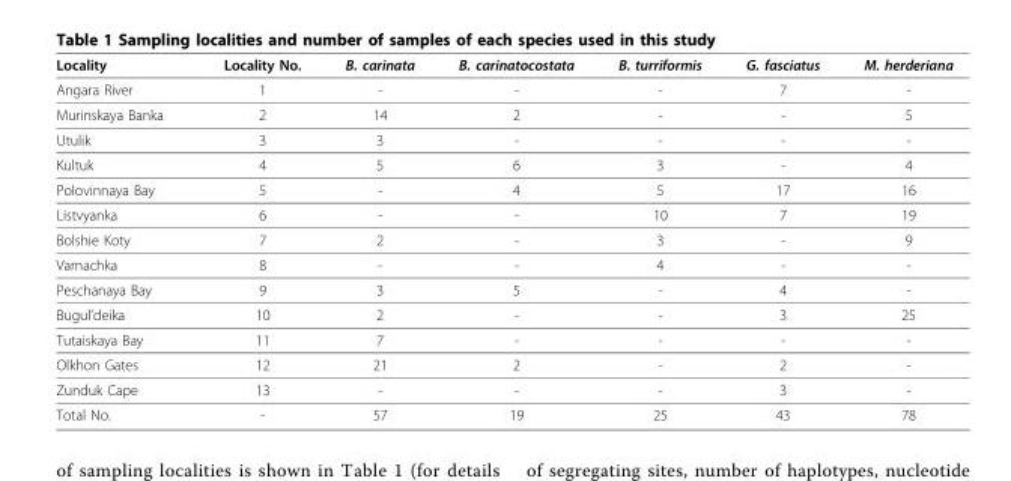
<table><thead><tr><td>Locality</td><td>Locality No.</td><td>B. carinata</td><td>B. carinatocostata</td><td>B. turriformis</td><td>G. fasciatus</td><td>M. herderiana</td></tr></thead><tbody><tr><td>Angara River</td><td>1</td><td>-</td><td>-</td><td>-</td><td>7</td><td>-</td></tr><tr><td>Murinskaya Banka</td><td>2</td><td>14</td><td>2</td><td>-</td><td>-</td><td>5</td></tr><tr><td>Utulik</td><td>3</td><td>3</td><td>-</td><td>-</td><td>-</td><td>-</td></tr><tr><td>Kultuk</td><td>4</td><td>5</td><td>6</td><td>3</td><td>-</td><td>4</td></tr><tr><td>Polovinnaya Bay</td><td>5</td><td>-</td><td>4</td><td>5</td><td>17</td><td>16</td></tr><tr><td>Listvyanka</td><td>6</td><td>-</td><td>-</td><td>10</td><td>7</td><td>19</td></tr><tr><td>Bolshie Koty</td><td>7</td><td>2</td><td>-</td><td>3</td><td>-</td><td>9</td></tr><tr><td>Varnachka</td><td>8</td><td>-</td><td>-</td><td>4</td><td>-</td><td>-</td></tr><tr><td>Peschanaya Bay</td><td>9</td><td>3</td><td>5</td><td>-</td><td>4</td><td>-</td></tr><tr><td>Bugul’deika</td><td>10</td><td>2</td><td>-</td><td>-</td><td>3</td><td>25</td></tr><tr><td>Tutaiskaya Bay</td><td>11</td><td>7</td><td>-</td><td>-</td><td>-</td><td>-</td></tr><tr><td>Olkhon Gates</td><td>12</td><td>21</td><td>2</td><td>-</td><td>2</td><td>-</td></tr><tr><td>Zunduk Cape</td><td>13</td><td>-</td><td>-</td><td>-</td><td>3</td><td>-</td></tr><tr><td>Total No.</td><td>-</td><td>57</td><td>19</td><td>25</td><td>43</td><td>78</td></tr></tbody></table>